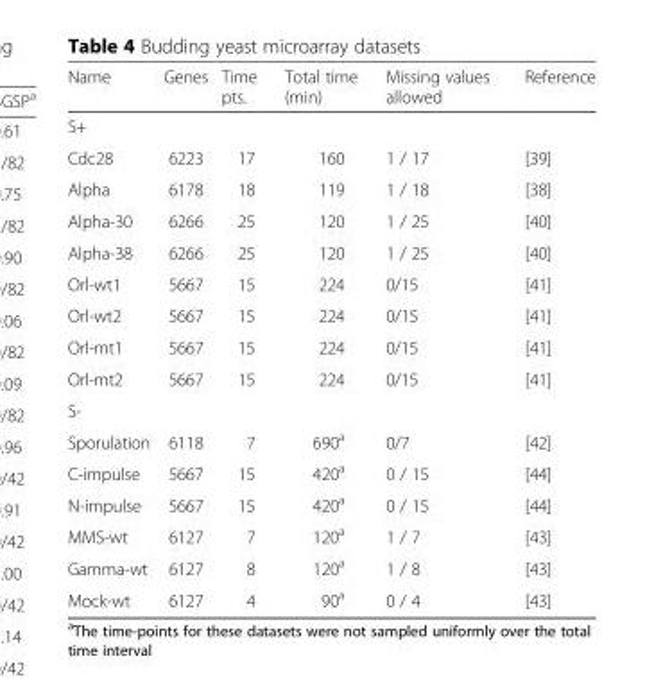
<table><thead><tr><td>Name</td><td>Genes</td><td>Time pts.</td><td>Total time (min)</td><td>Missing values allowed</td><td>Reference</td></tr></thead><tbody><tr><td colspan="6">S+</td></tr><tr><td>Cdc28</td><td>6223</td><td>17</td><td>160</td><td>1 / 17</td><td>[39]</td></tr><tr><td>Alpha</td><td>6178</td><td>18</td><td>119</td><td>1 / 18</td><td>[38]</td></tr><tr><td>Alpha-30</td><td>6266</td><td>25</td><td>120</td><td>1 / 25</td><td>[40]</td></tr><tr><td>Alpha-38</td><td>6266</td><td>25</td><td>120</td><td>1 / 25</td><td>[40]</td></tr><tr><td>Orl-wt1</td><td>5667</td><td>15</td><td>224</td><td>0/15</td><td>[41]</td></tr><tr><td>Orl-wt2</td><td>5667</td><td>15</td><td>224</td><td>0/15</td><td>[41]</td></tr><tr><td>Orl-mt1</td><td>5667</td><td>15</td><td>224</td><td>0/15</td><td>[41]</td></tr><tr><td>Orl-mt2</td><td>5667</td><td>15</td><td>224</td><td>0/15</td><td>[41]</td></tr><tr><td colspan="6">S-</td></tr><tr><td>Sporulation</td><td>6118</td><td>7</td><td>690<sup>a</sup></td><td>0/7</td><td>[42]</td></tr><tr><td>C-impulse</td><td>5667</td><td>15</td><td>420<sup>a</sup></td><td>0 / 15</td><td>[44]</td></tr><tr><td>N-impulse</td><td>5667</td><td>15</td><td>420<sup>a</sup></td><td>0 / 15</td><td>[44]</td></tr><tr><td>MMS-wt</td><td>6127</td><td>7</td><td>120<sup>a</sup></td><td>1 / 7</td><td>[43]</td></tr><tr><td>Gamma-wt</td><td>6127</td><td>8</td><td>120<sup>a</sup></td><td>1 / 8</td><td>[43]</td></tr><tr><td>Mock-wt</td><td>6127</td><td>4</td><td>90<sup>a</sup></td><td>0 / 4</td><td>[43]</td></tr></tbody></table>